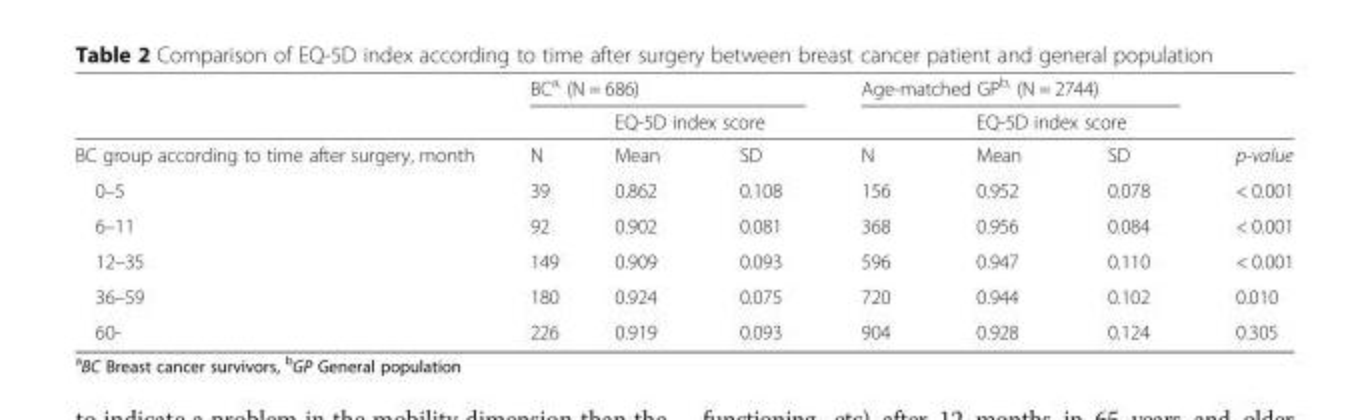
<table><thead><tr><td rowspan="3">BC group according to time after surgery, month</td><td colspan="3">BC<sup>a,</sup> (N = 686)</td><td colspan="3">Age-matched GP<sup>b,</sup> (N = 2744)</td><td rowspan="3">p-value</td></tr><tr><td rowspan="2">N</td><td colspan="2">EQ-5D index score</td><td rowspan="2">N</td><td colspan="2">EQ-5D index score</td></tr><tr><td>Mean</td><td>SD</td><td>Mean</td><td>SD</td></tr></thead><tbody><tr><td>0–5</td><td>39</td><td>0.862</td><td>0.108</td><td>156</td><td>0.952</td><td>0.078</td><td>&lt; 0.001</td></tr><tr><td>6–11</td><td>92</td><td>0.902</td><td>0.081</td><td>368</td><td>0.956</td><td>0.084</td><td>&lt; 0.001</td></tr><tr><td>12–35</td><td>149</td><td>0.909</td><td>0.093</td><td>596</td><td>0.947</td><td>0.110</td><td>&lt; 0.001</td></tr><tr><td>36–59</td><td>180</td><td>0.924</td><td>0.075</td><td>720</td><td>0.944</td><td>0.102</td><td>0.010</td></tr><tr><td>60-</td><td>226</td><td>0.919</td><td>0.093</td><td>904</td><td>0.928</td><td>0.124</td><td>0.305</td></tr></tbody></table>